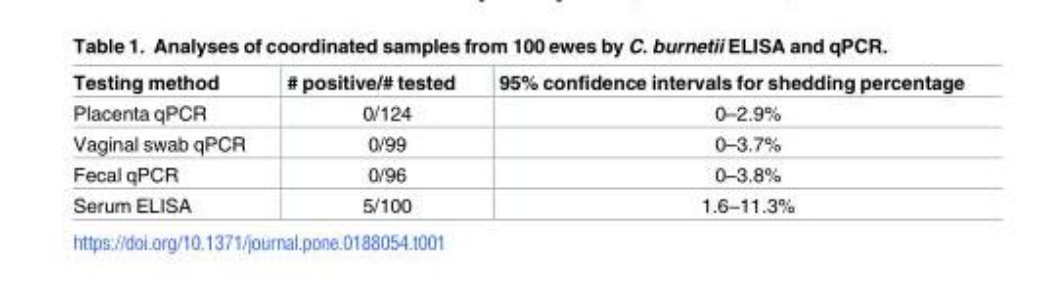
<table><thead><tr><td>Testing method</td><td># positive/# tested</td><td>95% confidence intervals for shedding percentage</td></tr></thead><tbody><tr><td>Placenta qPCR</td><td>0/124</td><td>0–2.9%</td></tr><tr><td>Vaginal swab qPCR</td><td>0/99</td><td>0–3.7%</td></tr><tr><td>Fecal qPCR</td><td>0/96</td><td>0–3.8%</td></tr><tr><td>Serum ELISA</td><td>5/100</td><td>1.6–11.3%</td></tr></tbody></table>